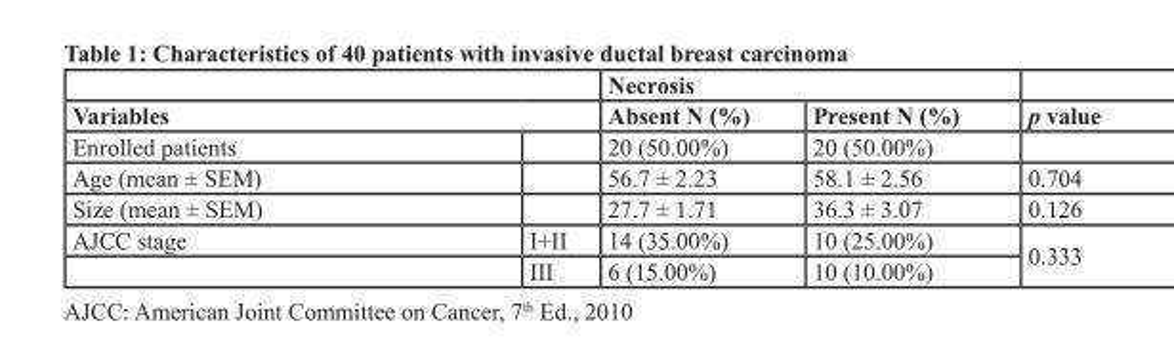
<table><thead><tr><td></td><td></td><td colspan="2">Necrosis</td><td rowspan="2">p value</td></tr><tr><td colspan="2">Variables</td><td>Absent N (%)</td><td>Present N (%)</td></tr></thead><tbody><tr><td>Enrolled patients</td><td></td><td>20 (50.00%)</td><td>20 (50.00%)</td><td></td></tr><tr><td>Age (mean ± SEM)</td><td></td><td>56.7 ± 2.23</td><td>58.1 ± 2.56</td><td>0.704</td></tr><tr><td>Size (mean ± SEM)</td><td></td><td>27.7 ± 1.71</td><td>36.3 ± 3.07</td><td>0.126</td></tr><tr><td rowspan="2">AJCC stage</td><td>I+II</td><td>14 (35.00%)</td><td>10 (25.00%)</td><td rowspan="2">0.333</td></tr><tr><td>III</td><td>6 (15.00%)</td><td>10 (10.00%)</td></tr></tbody></table>